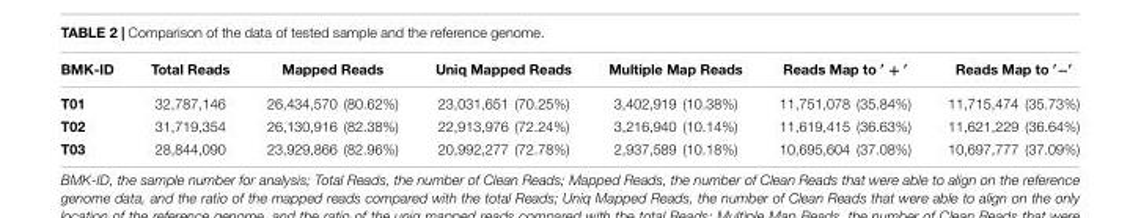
<table><thead><tr><td>BMK-ID</td><td>Total Reads</td><td>Mapped Reads</td><td>Uniq Mapped Reads</td><td>Multiple Map Reads</td><td>Reads Map to ′ + ′</td><td>Reads Map to ′−′</td></tr></thead><tbody><tr><td>T01</td><td>32,787,146</td><td>26,434,570 (80.62%)</td><td>23,031,651 (70.25%)</td><td>3,402,919 (10.38%)</td><td>11,751,078 (35.84%)</td><td>11,715,474 (35.73%)</td></tr><tr><td>T02</td><td>31,719,354</td><td>26,130,916 (82.38%)</td><td>22,913,976 (72.24%)</td><td>3,216,940 (10.14%)</td><td>11,619,415 (36.63%)</td><td>11,621,229 (36.64%)</td></tr><tr><td>T03</td><td>28,844,090</td><td>23,929,866 (82.96%)</td><td>20,992,277 (72.78%)</td><td>2,937,589 (10.18%)</td><td>10,695,604 (37.08%)</td><td>10,697,777 (37.09%)</td></tr></tbody></table>